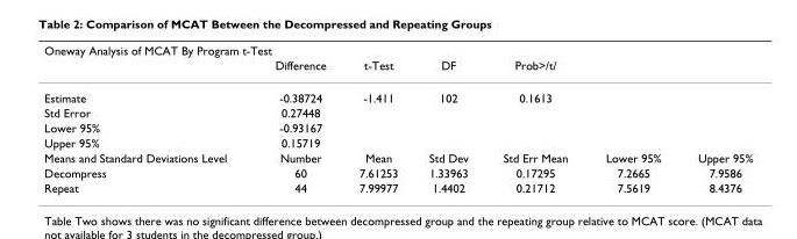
<table><thead><tr><td colspan="7">Oneway Analysis of MCAT By Program t-Test</td></tr><tr><td></td><td>Difference</td><td>t-Test</td><td>DF</td><td>Prob&gt;/t/</td><td></td><td></td></tr></thead><tbody><tr><td>Estimate</td><td>-0.38724</td><td>-1.411</td><td>102</td><td>0.1613</td><td></td><td></td></tr><tr><td>Std Error</td><td>0.27448</td><td></td><td></td><td></td><td></td><td></td></tr><tr><td>Lower 95%</td><td>-0.93167</td><td></td><td></td><td></td><td></td><td></td></tr><tr><td>Upper 95%</td><td>0.15719</td><td></td><td></td><td></td><td></td><td></td></tr><tr><td>Means and Standard Deviations Level</td><td>Number</td><td>Mean</td><td>Std Dev</td><td>Std Err Mean</td><td>Lower 95%</td><td>Upper 95%</td></tr><tr><td>Decompress</td><td>60</td><td>7.61253</td><td>1.33963</td><td>0.17295</td><td>7.2665</td><td>7.9586</td></tr><tr><td>Repeat</td><td>44</td><td>7.99977</td><td>1.4402</td><td>0.21712</td><td>7.5619</td><td>8.4376</td></tr></tbody></table>